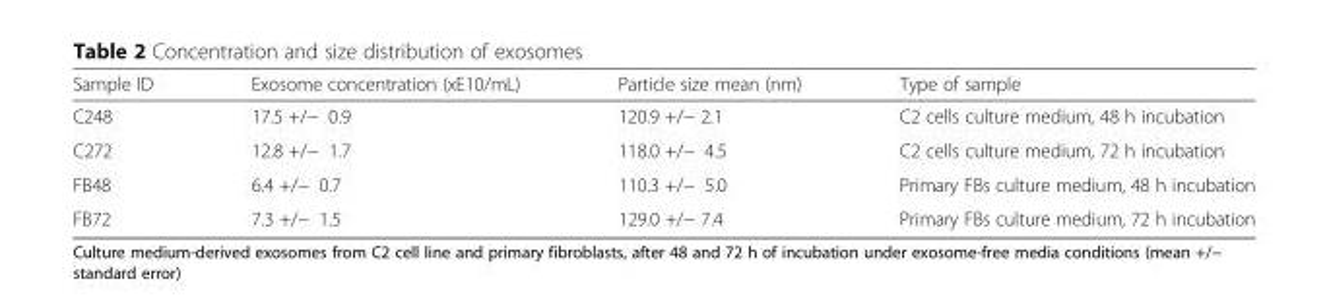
<table><thead><tr><td>Sample ID</td><td>Exosome concentration (xE10/mL)</td><td>Particle size mean (nm)</td><td>Type of sample</td></tr></thead><tbody><tr><td>C248</td><td>17.5 +/− 0.9</td><td>120.9 +/− 2.1</td><td>C2 cells culture medium, 48 h incubation</td></tr><tr><td>C272</td><td>12.8 +/− 1.7</td><td>118.0 +/− 4.5</td><td>C2 cells culture medium, 72 h incubation</td></tr><tr><td>FB48</td><td>6.4 +/− 0.7</td><td>110.3 +/− 5.0</td><td>Primary FBs culture medium, 48 h incubation</td></tr><tr><td>FB72</td><td>7.3 +/− 1.5</td><td>129.0 +/− 7.4</td><td>Primary FBs culture medium, 72 h incubation</td></tr></tbody></table>